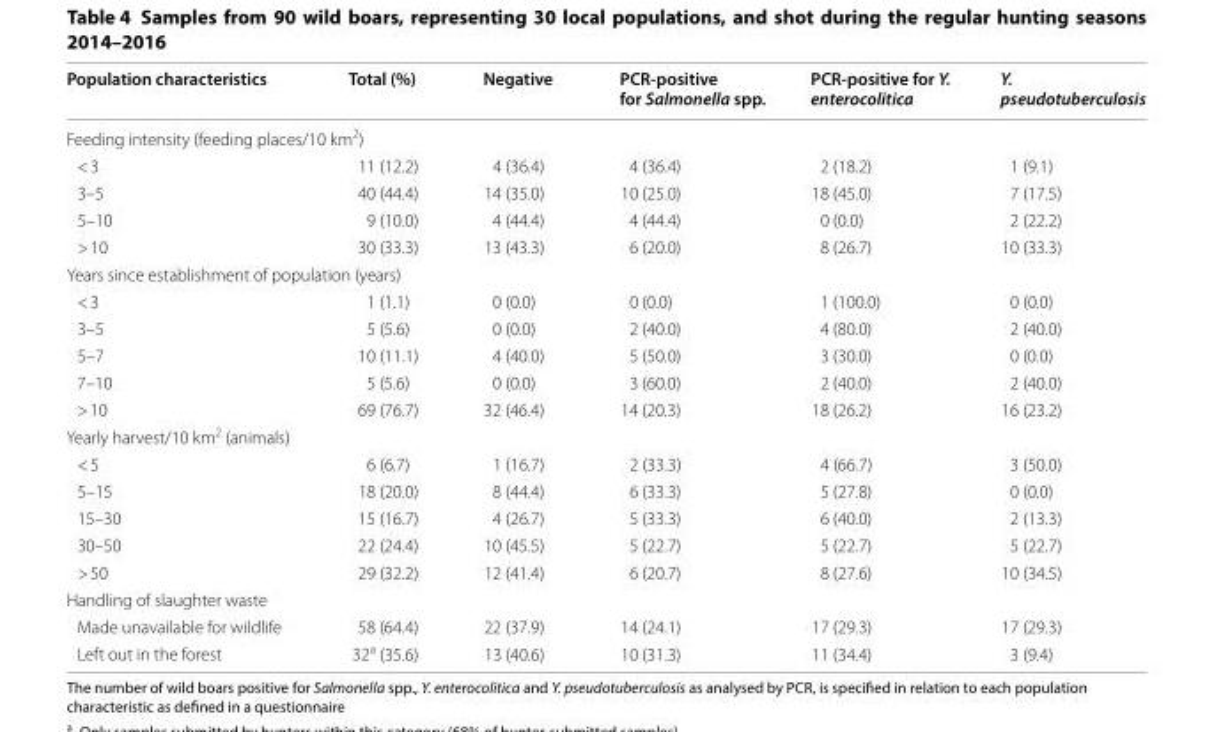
<table><thead><tr><td>Population characteristics</td><td>Total (%)</td><td>Negative</td><td>PCR‑positive for Salmonella spp.</td><td>PCR‑positive for Y. enterocolitica</td><td>Y. pseudotuberculosis</td></tr></thead><tbody><tr><td colspan="6">Feeding intensity (feeding places/10 km<sup>2</sup>)</td></tr><tr><td>&lt; 3</td><td>11 (12.2)</td><td>4 (36.4)</td><td>4 (36.4)</td><td>2 (18.2)</td><td>1 (9.1)</td></tr><tr><td>3–5</td><td>40 (44.4)</td><td>14 (35.0)</td><td>10 (25.0)</td><td>18 (45.0)</td><td>7 (17.5)</td></tr><tr><td>5–10</td><td>9 (10.0)</td><td>4 (44.4)</td><td>4 (44.4)</td><td>0 (0.0)</td><td>2 (22.2)</td></tr><tr><td>&gt; 10</td><td>30 (33.3)</td><td>13 (43.3)</td><td>6 (20.0)</td><td>8 (26.7)</td><td>10 (33.3)</td></tr><tr><td colspan="6">Years since establishment of population (years)</td></tr><tr><td>&lt; 3</td><td>1 (1.1)</td><td>0 (0.0)</td><td>0 (0.0)</td><td>1 (100.0)</td><td>0 (0.0)</td></tr><tr><td>3–5</td><td>5 (5.6)</td><td>0 (0.0)</td><td>2 (40.0)</td><td>4 (80.0)</td><td>2 (40.0)</td></tr><tr><td>5–7</td><td>10 (11.1)</td><td>4 (40.0)</td><td>5 (50.0)</td><td>3 (30.0)</td><td>0 (0.0)</td></tr><tr><td>7–10</td><td>5 (5.6)</td><td>0 (0.0)</td><td>3 (60.0)</td><td>2 (40.0)</td><td>2 (40.0)</td></tr><tr><td>&gt; 10</td><td>69 (76.7)</td><td>32 (46.4)</td><td>14 (20.3)</td><td>18 (26.2)</td><td>16 (23.2)</td></tr><tr><td colspan="6">Yearly harvest/10 km<sup>2</sup> (animals)</td></tr><tr><td>&lt; 5</td><td>6 (6.7)</td><td>1 (16.7)</td><td>2 (33.3)</td><td>4 (66.7)</td><td>3 (50.0)</td></tr><tr><td>5–15</td><td>18 (20.0)</td><td>8 (44.4)</td><td>6 (33.3)</td><td>5 (27.8)</td><td>0 (0.0)</td></tr><tr><td>15–30</td><td>15 (16.7)</td><td>4 (26.7)</td><td>5 (33.3)</td><td>6 (40.0)</td><td>2 (13.3)</td></tr><tr><td>30–50</td><td>22 (24.4)</td><td>10 (45.5)</td><td>5 (22.7)</td><td>5 (22.7)</td><td>5 (22.7)</td></tr><tr><td>&gt; 50</td><td>29 (32.2)</td><td>12 (41.4)</td><td>6 (20.7)</td><td>8 (27.6)</td><td>10 (34.5)</td></tr><tr><td colspan="6">Handling of slaughter waste</td></tr><tr><td>Made unavailable for wildlife</td><td>58 (64.4)</td><td>22 (37.9)</td><td>14 (24.1)</td><td>17 (29.3)</td><td>17 (29.3)</td></tr><tr><td>Left out in the forest</td><td>32<sup>a</sup> (35.6)</td><td>13 (40.6)</td><td>10 (31.3)</td><td>11 (34.4)</td><td>3 (9.4)</td></tr></tbody></table>